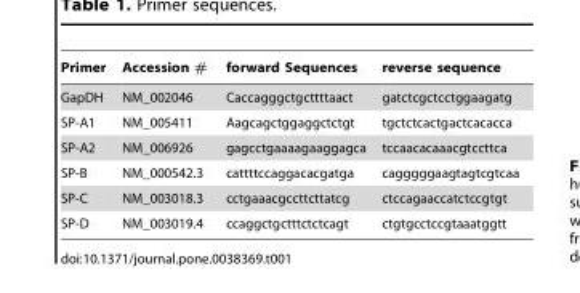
<table><thead><tr><td>Primer</td><td>Accession #</td><td>forward Sequences</td><td>reverse sequence</td></tr></thead><tbody><tr><td>GapDH</td><td>NM_002046</td><td>Caccagggctgcttttaact</td><td>gatctcgctcctggaagatg</td></tr><tr><td>SP-A1</td><td>NM_005411</td><td>Aagcagctggaggctctgt</td><td>tgctctcactgactcacacca</td></tr><tr><td>SP-A2</td><td>NM_006926</td><td>gagcctgaaaagaaggagca</td><td>tccaacacaaacgtccttca</td></tr><tr><td>SP-B</td><td>NM_000542.3</td><td>cattttccaggacacgatga</td><td>cagggggaagtagtcgtcaa</td></tr><tr><td>SP-C</td><td>NM_003018.3</td><td>cctgaaacgccttcttatcg</td><td>ctccagaaccatctccgtgt</td></tr><tr><td>SP-D</td><td>NM_003019.4</td><td>ccaggctgctttctctcagt</td><td>ctgtgcctccgtaaatggtt</td></tr></tbody></table>